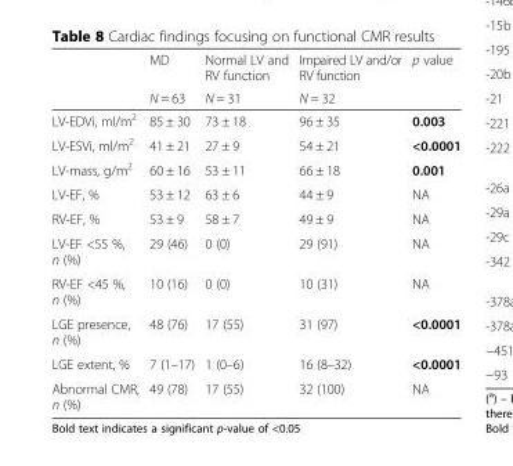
<table><thead><tr><td rowspan="2"></td><td rowspan="2">MD N = 63</td><td rowspan="2">Normal LV and RV function N = 31</td><td rowspan="2">Impaired LV and/or RV function N = 32</td><td rowspan="2">p value</td></tr><tr></tr></thead><tbody><tr><td>LV-EDVi, ml/m<sup>2</sup></td><td>85 ± 30</td><td>73 ± 18</td><td>96 ± 35</td><td>0.003</td></tr><tr><td>LV-ESVi, ml/m<sup>2</sup></td><td>41 ± 21</td><td>27 ± 9</td><td>54 ± 21</td><td>&lt;0.0001</td></tr><tr><td>LV-mass, g/m<sup>2</sup></td><td>60 ± 16</td><td>53 ± 11</td><td>66 ± 18</td><td>0.001</td></tr><tr><td>LV-EF, %</td><td>53 ± 12</td><td>63 ± 6</td><td>44 ± 9</td><td>NA</td></tr><tr><td>RV-EF, %</td><td>53 ± 9</td><td>58 ± 7</td><td>49 ± 9</td><td>NA</td></tr><tr><td>LV-EF &lt;55 %, n (%)</td><td>29 (46)</td><td>0 (0)</td><td>29 (91)</td><td>NA</td></tr><tr><td>RV-EF &lt;45 %, n (%)</td><td>10 (16)</td><td>0 (0)</td><td>10 (31)</td><td>NA</td></tr><tr><td>LGE presence, n (%)</td><td>48 (76)</td><td>17 (55)</td><td>31 (97)</td><td>&lt;0.0001</td></tr><tr><td>LGE extent, %</td><td>7 (1–17)</td><td>1 (0–6)</td><td>16 (8–32)</td><td>&lt;0.0001</td></tr><tr><td>Abnormal CMR, n (%)</td><td>49 (78)</td><td>17 (55)</td><td>32 (100)</td><td>NA</td></tr></tbody></table>